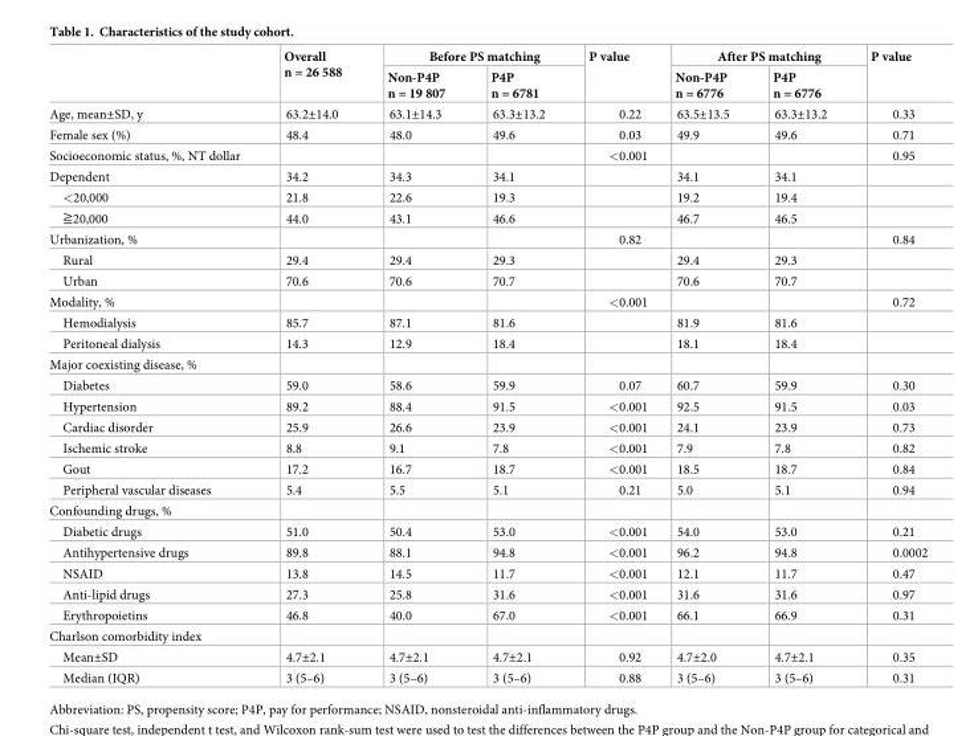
<table><thead><tr><td rowspan="2"></td><td rowspan="2">Overall n = 26 588</td><td colspan="2">Before PS matching</td><td rowspan="2">P value</td><td colspan="2">After PS matching</td><td rowspan="2">P value</td></tr><tr><td>Non-P4P n = 19 807</td><td>P4P n = 6781</td><td>Non-P4P n = 6776</td><td>P4P n = 6776</td></tr></thead><tbody><tr><td>Age, mean±SD, y</td><td>63.2±14.0</td><td>63.1±14.3</td><td>63.3±13.2</td><td>0.22</td><td>63.5±13.5</td><td>63.3±13.2</td><td>0.33</td></tr><tr><td>Female sex (%)</td><td>48.4</td><td>48.0</td><td>49.6</td><td>0.03</td><td>49.9</td><td>49.6</td><td>0.71</td></tr><tr><td>Socioeconomic status, %, NT dollar</td><td></td><td></td><td></td><td>&lt;0.001</td><td></td><td></td><td>0.95</td></tr><tr><td>Dependent</td><td>34.2</td><td>34.3</td><td>34.1</td><td></td><td>34.1</td><td>34.1</td><td></td></tr><tr><td>&lt;20,000</td><td>21.8</td><td>22.6</td><td>19.3</td><td></td><td>19.2</td><td>19.4</td><td></td></tr><tr><td>≧20,000</td><td>44.0</td><td>43.1</td><td>46.6</td><td></td><td>46.7</td><td>46.5</td><td></td></tr><tr><td>Urbanization, %</td><td></td><td></td><td></td><td>0.82</td><td></td><td></td><td>0.84</td></tr><tr><td>Rural</td><td>29.4</td><td>29.4</td><td>29.3</td><td></td><td>29.4</td><td>29.3</td><td></td></tr><tr><td>Urban</td><td>70.6</td><td>70.6</td><td>70.7</td><td></td><td>70.6</td><td>70.7</td><td></td></tr><tr><td>Modality, %</td><td></td><td></td><td></td><td>&lt;0.001</td><td></td><td></td><td>0.72</td></tr><tr><td>Hemodialysis</td><td>85.7</td><td>87.1</td><td>81.6</td><td></td><td>81.9</td><td>81.6</td><td></td></tr><tr><td>Peritoneal dialysis</td><td>14.3</td><td>12.9</td><td>18.4</td><td></td><td>18.1</td><td>18.4</td><td></td></tr><tr><td colspan="8">Major coexisting disease, %</td></tr><tr><td>Diabetes</td><td>59.0</td><td>58.6</td><td>59.9</td><td>0.07</td><td>60.7</td><td>59.9</td><td>0.30</td></tr><tr><td>Hypertension</td><td>89.2</td><td>88.4</td><td>91.5</td><td>&lt;0.001</td><td>92.5</td><td>91.5</td><td>0.03</td></tr><tr><td>Cardiac disorder</td><td>25.9</td><td>26.6</td><td>23.9</td><td>&lt;0.001</td><td>24.1</td><td>23.9</td><td>0.73</td></tr><tr><td>Ischemic stroke</td><td>8.8</td><td>9.1</td><td>7.8</td><td>&lt;0.001</td><td>7.9</td><td>7.8</td><td>0.82</td></tr><tr><td>Gout</td><td>17.2</td><td>16.7</td><td>18.7</td><td>&lt;0.001</td><td>18.5</td><td>18.7</td><td>0.84</td></tr><tr><td>Peripheral vascular diseases</td><td>5.4</td><td>5.5</td><td>5.1</td><td>0.21</td><td>5.0</td><td>5.1</td><td>0.94</td></tr><tr><td colspan="8">Confounding drugs, %</td></tr><tr><td>Diabetic drugs</td><td>51.0</td><td>50.4</td><td>53.0</td><td>&lt;0.001</td><td>54.0</td><td>53.0</td><td>0.21</td></tr><tr><td>Antihypertensive drugs</td><td>89.8</td><td>88.1</td><td>94.8</td><td>&lt;0.001</td><td>96.2</td><td>94.8</td><td>0.0002</td></tr><tr><td>NSAID</td><td>13.8</td><td>14.5</td><td>11.7</td><td>&lt;0.001</td><td>12.1</td><td>11.7</td><td>0.47</td></tr><tr><td>Anti-lipid drugs</td><td>27.3</td><td>25.8</td><td>31.6</td><td>&lt;0.001</td><td>31.6</td><td>31.6</td><td>0.97</td></tr><tr><td>Erythropoietins</td><td>46.8</td><td>40.0</td><td>67.0</td><td>&lt;0.001</td><td>66.1</td><td>66.9</td><td>0.31</td></tr><tr><td colspan="8">Charlson comorbidity index</td></tr><tr><td>Mean±SD</td><td>4.7±2.1</td><td>4.7±2.1</td><td>4.7±2.1</td><td>0.92</td><td>4.7±2.0</td><td>4.7±2.1</td><td>0.35</td></tr><tr><td>Median (IQR)</td><td>3 (5–6)</td><td>3 (5–6)</td><td>3 (5–6)</td><td>0.88</td><td>3 (5–6)</td><td>3 (5–6)</td><td>0.31</td></tr></tbody></table>